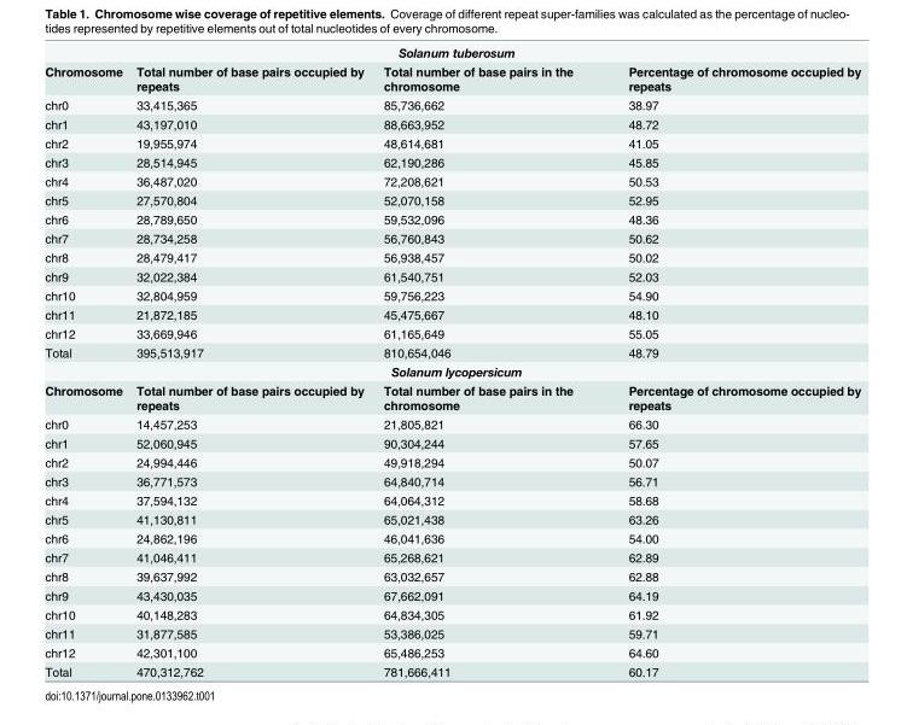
<table><tbody><tr><td colspan="4">Solanum tuberosum</td></tr><tr><td>Chromosome</td><td>Total number of base pairs occupied by repeats</td><td>Total number of base pairs in the chromosome</td><td>Percentage of chromosome occupied by repeats</td></tr><tr><td>chr0</td><td>33,415,365</td><td>85,736,662</td><td>38.97</td></tr><tr><td>chr1</td><td>43,197,010</td><td>88,663,952</td><td>48.72</td></tr><tr><td>chr2</td><td>19,955,974</td><td>48,614,681</td><td>41.05</td></tr><tr><td>chr3</td><td>28,514,945</td><td>62,190,286</td><td>45.85</td></tr><tr><td>chr4</td><td>36,487,020</td><td>72,208,621</td><td>50.53</td></tr><tr><td>chr5</td><td>27,570,804</td><td>52,070,158</td><td>52.95</td></tr><tr><td>chr6</td><td>28,789,650</td><td>59,532,096</td><td>48.36</td></tr><tr><td>chr7</td><td>28,734,258</td><td>56,760,843</td><td>50.62</td></tr><tr><td>chr8</td><td>28,479,417</td><td>56,938,457</td><td>50.02</td></tr><tr><td>chr9</td><td>32,022,384</td><td>61,540,751</td><td>52.03</td></tr><tr><td>chr10</td><td>32,804,959</td><td>59,756,223</td><td>54.90</td></tr><tr><td>chr11</td><td>21,872,185</td><td>45,475,667</td><td>48.10</td></tr><tr><td>chr12</td><td>33,669,946</td><td>61,165,649</td><td>55.05</td></tr><tr><td>Total</td><td>395,513,917</td><td>810,654,046</td><td>48.79</td></tr><tr><td colspan="4">Solanum lycopersicum</td></tr><tr><td>Chromosome</td><td>Total number of base pairs occupied by repeats</td><td>Total number of base pairs in the chromosome</td><td>Percentage of chromosome occupied by repeats</td></tr><tr><td>chr0</td><td>14,457,253</td><td>21,805,821</td><td>66.30</td></tr><tr><td>chr1</td><td>52,060,945</td><td>90,304,244</td><td>57.65</td></tr><tr><td>chr2</td><td>24,994,446</td><td>49,918,294</td><td>50.07</td></tr><tr><td>chr3</td><td>36,771,573</td><td>64,840,714</td><td>56.71</td></tr><tr><td>chr4</td><td>37,594,132</td><td>64,064,312</td><td>58.68</td></tr><tr><td>chr5</td><td>41,130,811</td><td>65,021,438</td><td>63.26</td></tr><tr><td>chr6</td><td>24,862,196</td><td>46,041,636</td><td>54.00</td></tr><tr><td>chr7</td><td>41,046,411</td><td>65,268,621</td><td>62.89</td></tr><tr><td>chr8</td><td>39,637,992</td><td>63,032,657</td><td>62.88</td></tr><tr><td>chr9</td><td>43,430,035</td><td>67,662,091</td><td>64.19</td></tr><tr><td>chr10</td><td>40,148,283</td><td>64,834,305</td><td>61.92</td></tr><tr><td>chr11</td><td>31,877,585</td><td>53,386,025</td><td>59.71</td></tr><tr><td>chr12</td><td>42,301,100</td><td>65,486,253</td><td>64.60</td></tr><tr><td>Total</td><td>470,312,762</td><td>781,666,411</td><td>60.17</td></tr></tbody></table>